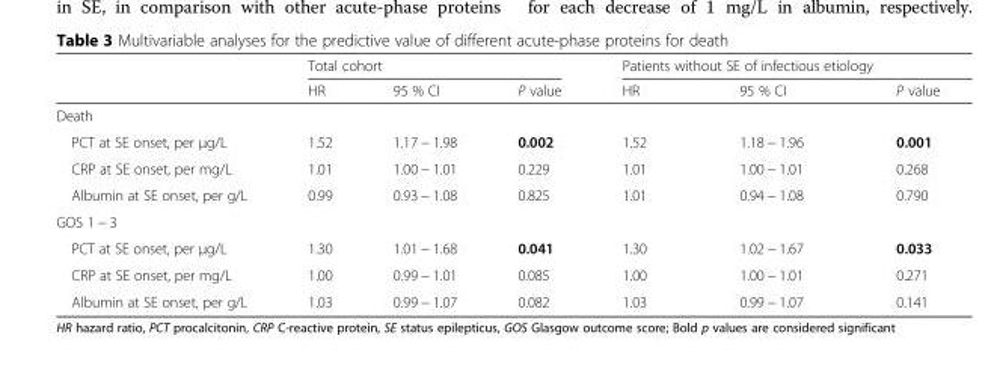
<table><thead><tr><td rowspan="2"></td><td colspan="3">Total cohort</td><td colspan="3">Patients without SE of infectious etiology</td></tr><tr><td>HR</td><td>95 % CI</td><td>P value</td><td>HR</td><td>95 % CI</td><td>P value</td></tr></thead><tbody><tr><td colspan="7">Death</td></tr><tr><td>PCT at SE onset, per μg/L</td><td>1.52</td><td>1.17 − 1.98</td><td>0.002</td><td>1.52</td><td>1.18 − 1.96</td><td>0.001</td></tr><tr><td>CRP at SE onset, per mg/L</td><td>1.01</td><td>1.00 − 1.01</td><td>0.229</td><td>1.01</td><td>1.00 − 1.01</td><td>0.268</td></tr><tr><td>Albumin at SE onset, per g/L</td><td>0.99</td><td>0.93 − 1.08</td><td>0.825</td><td>1.01</td><td>0.94 − 1.08</td><td>0.790</td></tr><tr><td colspan="7">GOS 1 − 3</td></tr><tr><td>PCT at SE onset, per μg/L</td><td>1.30</td><td>1.01 − 1.68</td><td>0.041</td><td>1.30</td><td>1.02 − 1.67</td><td>0.033</td></tr><tr><td>CRP at SE onset, per mg/L</td><td>1.00</td><td>0.99 − 1.01</td><td>0.085</td><td>1.00</td><td>1.00 − 1.01</td><td>0.271</td></tr><tr><td>Albumin at SE onset, per g/L</td><td>1.03</td><td>0.99 − 1.07</td><td>0.082</td><td>1.03</td><td>0.99 − 1.07</td><td>0.141</td></tr></tbody></table>